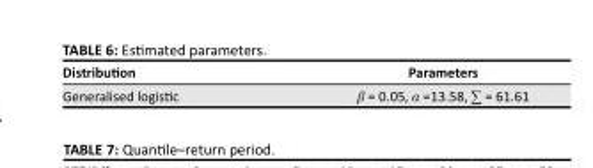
<table><thead><tr><td>Distribution</td><td>Parameters</td></tr></thead><tbody><tr><td>Generalised logistic</td><td>β = 0.05, α =13.58, ∑ = 61.61</td></tr></tbody></table>